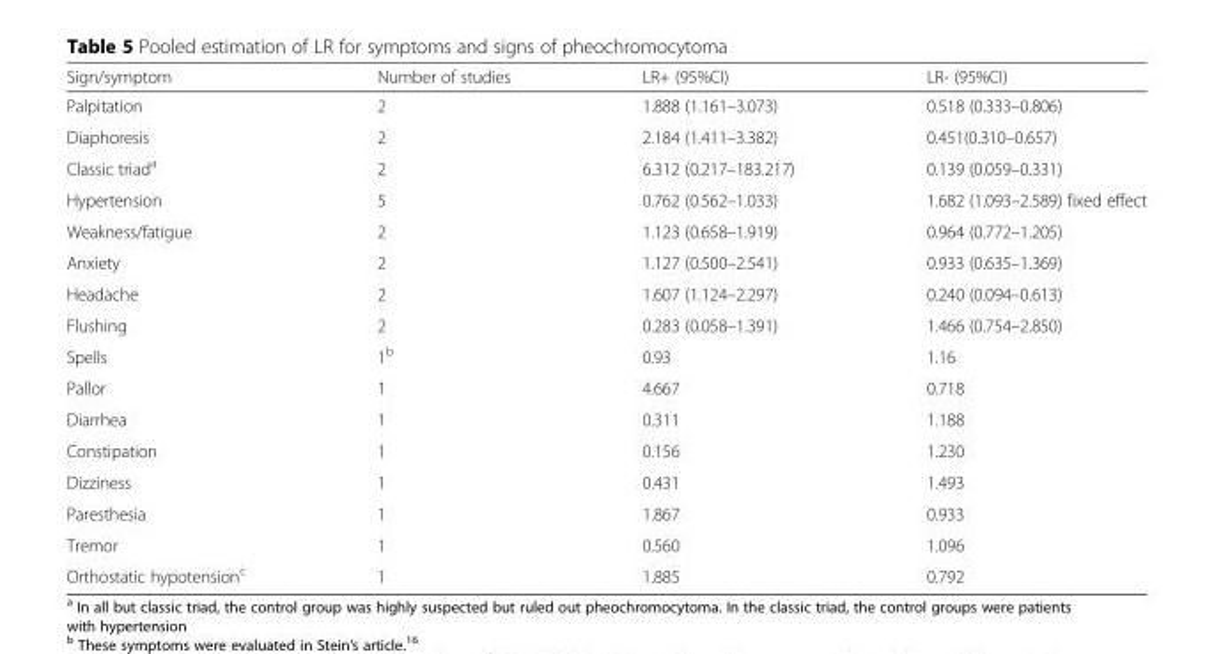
<table><thead><tr><td>Sign/symptom</td><td>Number of studies</td><td>LR+ (95%CI)</td><td>LR- (95%CI)</td></tr></thead><tbody><tr><td>Palpitation</td><td>2</td><td>1.888 (1.161–3.073)</td><td>0.518 (0.333–0.806)</td></tr><tr><td>Diaphoresis</td><td>2</td><td>2.184 (1.411–3.382)</td><td>0.451(0.310–0.657)</td></tr><tr><td>Classic triad<sup>a</sup></td><td>2</td><td>6.312 (0.217–183.217)</td><td>0.139 (0.059–0.331)</td></tr><tr><td>Hypertension</td><td>5</td><td>0.762 (0.562–1.033)</td><td>1.682 (1.093–2.589) fixed effect</td></tr><tr><td>Weakness/fatigue</td><td>2</td><td>1.123 (0.658–1.919)</td><td>0.964 (0.772–1.205)</td></tr><tr><td>Anxiety</td><td>2</td><td>1.127 (0.500–2.541)</td><td>0.933 (0.635–1.369)</td></tr><tr><td>Headache</td><td>2</td><td>1.607 (1.124–2.297)</td><td>0.240 (0.094–0.613)</td></tr><tr><td>Flushing</td><td>2</td><td>0.283 (0.058–1.391)</td><td>1.466 (0.754–2.850)</td></tr><tr><td>Spells</td><td>1<sup>b</sup></td><td>0.93</td><td>1.16</td></tr><tr><td>Pallor</td><td>1</td><td>4.667</td><td>0.718</td></tr><tr><td>Diarrhea</td><td>1</td><td>0.311</td><td>1.188</td></tr><tr><td>Constipation</td><td>1</td><td>0.156</td><td>1.230</td></tr><tr><td>Dizziness</td><td>1</td><td>0.431</td><td>1.493</td></tr><tr><td>Paresthesia</td><td>1</td><td>1.867</td><td>0.933</td></tr><tr><td>Tremor</td><td>1</td><td>0.560</td><td>1.096</td></tr><tr><td>Orthostatic hypotension<sup>c</sup></td><td>1</td><td>1.885</td><td>0.792</td></tr></tbody></table>